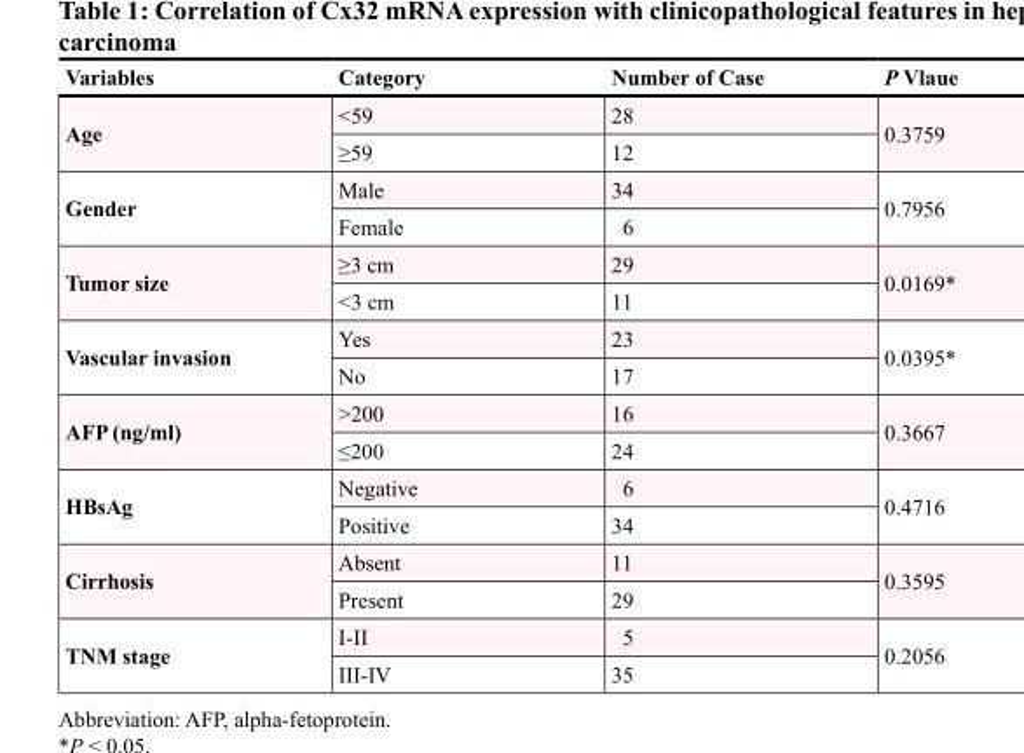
<table><thead><tr><td>Variables</td><td>category</td><td>number of case</td><td>P Vlaue</td></tr></thead><tbody><tr><td rowspan="2">Age</td><td>&lt;59</td><td>28</td><td rowspan="2">0.3759</td></tr><tr><td>≥59</td><td>12</td></tr><tr><td rowspan="2">Gender</td><td>Male</td><td>34</td><td rowspan="2">0.7956</td></tr><tr><td>Female</td><td>6</td></tr><tr><td rowspan="2">tumor size</td><td>≥3 cm</td><td>29</td><td rowspan="2">0.0169*</td></tr><tr><td>&lt;3 cm</td><td>11</td></tr><tr><td rowspan="2">Vascular invasion</td><td>Yes</td><td>23</td><td rowspan="2">0.0395*</td></tr><tr><td>No</td><td>17</td></tr><tr><td rowspan="2">AFP (ng/ml)</td><td>&gt;200</td><td>16</td><td rowspan="2">0.3667</td></tr><tr><td>≤200</td><td>24</td></tr><tr><td rowspan="2">HbsAg</td><td>Negative</td><td>6</td><td rowspan="2">0.4716</td></tr><tr><td>Positive</td><td>34</td></tr><tr><td rowspan="2">cirrhosis</td><td>Absent</td><td>11</td><td rowspan="2">0.3595</td></tr><tr><td>Present</td><td>29</td></tr><tr><td rowspan="2">tnM stage</td><td>I-II</td><td>5</td><td rowspan="2">0.2056</td></tr><tr><td>III-IV</td><td>35</td></tr></tbody></table>